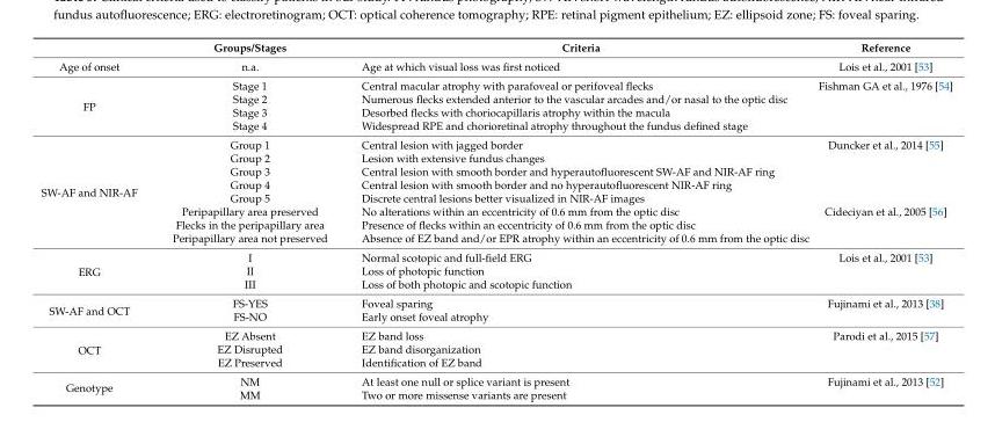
<table><thead><tr><td></td><td>Groups/Stages</td><td>Criteria</td><td>Reference</td></tr></thead><tbody><tr><td>Age of onset</td><td>n.a.</td><td>Age at which visual loss was first noticed</td><td>Lois et al., 2001 [53]</td></tr><tr><td rowspan="4">FP</td><td>Stage 1</td><td>Central macular atrophy with parafoveal or perifoveal flecks</td><td>Fishman GA et al., 1976 [54]</td></tr><tr><td>Stage 2</td><td>Numerous flecks extended anterior to the vascular arcades and/or nasal to the optic disc</td><td></td></tr><tr><td>Stage 3</td><td>Desorbed flecks with choriocapillaris atrophy within the macula</td><td></td></tr><tr><td>Stage 4</td><td>Widespread RPE and chorioretinal atrophy throughout the fundus defined stage</td><td></td></tr><tr><td rowspan="8">SW-AF and NIR-AF</td><td>Group 1</td><td>Central lesion with jagged border</td><td>Duncker et al., 2014 [55]</td></tr><tr><td>Group 2</td><td>Lesion with extensive fundus changes</td><td></td></tr><tr><td>Group 3</td><td>Central lesion with smooth border and hyperautofluorescent SW-AF and NIR-AF ring</td><td></td></tr><tr><td>Group 4</td><td>Central lesion with smooth border and no hyperautofluorescent NIR-AF ring</td><td></td></tr><tr><td>Group 5</td><td>Discrete central lesions better visualized in NIR-AF images</td><td></td></tr><tr><td>Peripapillary area preserved</td><td>No alterations within an eccentricity of 0.6 mm from the optic disc</td><td>Cideciyan et al., 2005 [56]</td></tr><tr><td>Flecks in the peripapillary area</td><td>Presence of flecks within an eccentricity of 0.6 mm from the optic disc</td><td></td></tr><tr><td>Peripapillary area not preserved</td><td colspan="2">Absence of EZ band and/or EPR atrophy within an eccentricity of 0.6 mm from the optic disc</td></tr><tr><td rowspan="3">ERG</td><td>I</td><td>Normal scotopic and full-field ERG</td><td>Lois et al., 2001 [53]</td></tr><tr><td>II</td><td>Loss of photopic function</td><td></td></tr><tr><td>III</td><td>Loss of both photopic and scotopic function</td><td></td></tr><tr><td rowspan="2">SW-AF and OCT</td><td>FS-YES</td><td>Foveal sparing</td><td>Fujinami et al., 2013 [38]</td></tr><tr><td>FS-NO</td><td>Early onset foveal atrophy</td><td></td></tr><tr><td rowspan="3">OCT</td><td>EZ Absent</td><td>EZ band loss</td><td>Parodi et al., 2015 [57]</td></tr><tr><td>EZ Disrupted</td><td>EZ band disorganization</td><td></td></tr><tr><td>EZ Preserved</td><td>Identification of EZ band</td><td></td></tr><tr><td rowspan="2">Genotype</td><td>NM</td><td>At least one null or splice variant is present</td><td>Fujinami et al., 2013 [52]</td></tr><tr><td>MM</td><td>Two or more missense variants are present</td><td></td></tr></tbody></table>